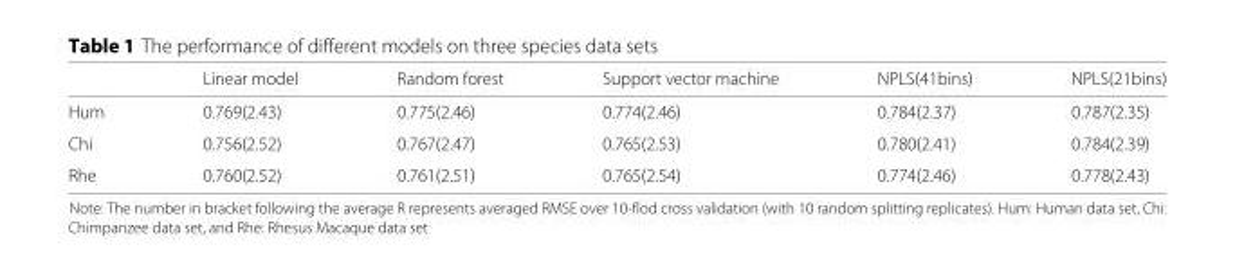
<table><thead><tr><td></td><td>Linear model</td><td>Random forest</td><td>Support vector machine</td><td>NPLS(41bins)</td><td>NPLS(21bins)</td></tr></thead><tbody><tr><td>Hum</td><td>0.769(2.43)</td><td>0.775(2.46)</td><td>0.774(2.46)</td><td>0.784(2.37)</td><td>0.787(2.35)</td></tr><tr><td>Chi</td><td>0.756(2.52)</td><td>0.767(2.47)</td><td>0.765(2.53)</td><td>0.780(2.41)</td><td>0.784(2.39)</td></tr><tr><td>Rhe</td><td>0.760(2.52)</td><td>0.761(2.51)</td><td>0.765(2.54)</td><td>0.774(2.46)</td><td>0.778(2.43)</td></tr></tbody></table>